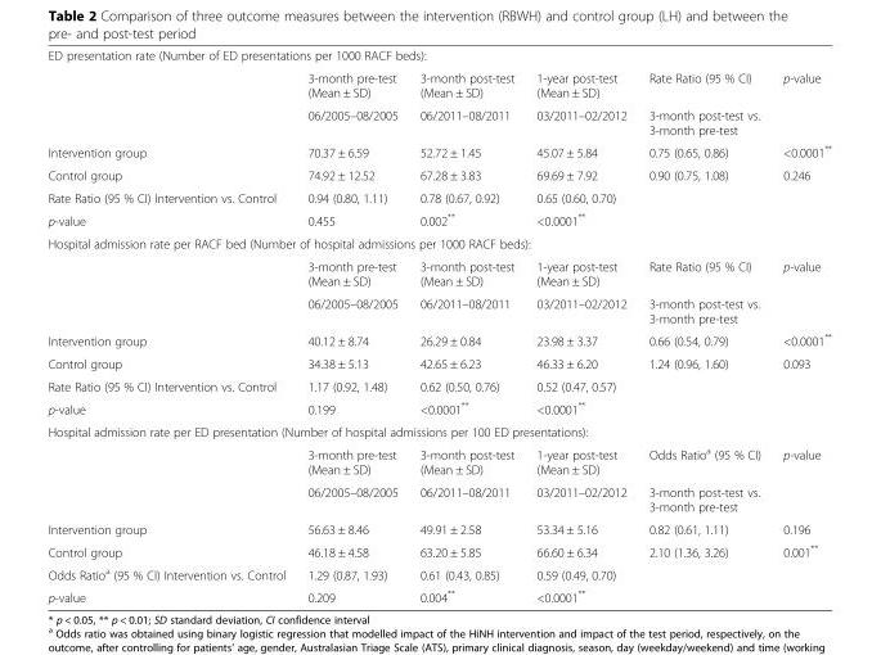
<table><tbody><tr><td colspan="6">ED presentation rate (Number of ED presentations per 1000 RACF beds):</td></tr><tr><td rowspan="2"></td><td>3-month pre-test (Mean ± SD)</td><td>3-month post-test (Mean ± SD)</td><td>1-year post-test (Mean ± SD)</td><td>Rate Ratio (95 % CI)</td><td rowspan="2">p-value</td></tr><tr><td>06/2005–08/2005</td><td>06/2011–08/2011</td><td>03/2011–02/2012</td><td>3-month post-test vs. 3-month pre-test</td></tr><tr><td>Intervention group</td><td>70.37 ± 6.59</td><td>52.72 ± 1.45</td><td>45.07 ± 5.84</td><td>0.75 (0.65, 0.86)</td><td>&lt;0.0001**</td></tr><tr><td>Control group</td><td>74.92 ± 12.52</td><td>67.28 ± 3.83</td><td>69.69 ± 7.92</td><td>0.90 (0.75, 1.08)</td><td>0.246</td></tr><tr><td>Rate Ratio (95 % CI) Intervention vs. Control</td><td>0.94 (0.80, 1.11)</td><td>0.78 (0.67, 0.92)</td><td>0.65 (0.60, 0.70)</td><td></td><td></td></tr><tr><td>p-value</td><td>0.455</td><td>0.002**</td><td>&lt;0.0001**</td><td></td><td></td></tr><tr><td colspan="6">Hospital admission rate per RACF bed (Number of hospital admissions per 1000 RACF beds):</td></tr><tr><td rowspan="2"></td><td>3-month pre-test (Mean ± SD)</td><td>3-month post-test (Mean ± SD)</td><td>1-year post-test (Mean ± SD)</td><td>Rate Ratio (95 % CI)</td><td rowspan="2">p-value</td></tr><tr><td>06/2005–08/2005</td><td>06/2011–08/2011</td><td>03/2011–02/2012</td><td>3-month post-test vs. 3-month pre-test</td></tr><tr><td>Intervention group</td><td>40.12 ± 8.74</td><td>26.29 ± 0.84</td><td>23.98 ± 3.37</td><td>0.66 (0.54, 0.79)</td><td>&lt;0.0001**</td></tr><tr><td>Control group</td><td>34.38 ± 5.13</td><td>42.65 ± 6.23</td><td>46.33 ± 6.20</td><td>1.24 (0.96, 1.60)</td><td>0.093</td></tr><tr><td>Rate Ratio (95 % CI) Intervention vs. Control</td><td>1.17 (0.92, 1.48)</td><td>0.62 (0.50, 0.76)</td><td>0.52 (0.47, 0.57)</td><td></td><td></td></tr><tr><td>p-value</td><td>0.199</td><td>&lt;0.0001**</td><td>&lt;0.0001**</td><td></td><td></td></tr><tr><td colspan="6">Hospital admission rate per ED presentation (Number of hospital admissions per 100 ED presentations):</td></tr><tr><td rowspan="2"></td><td>3-month pre-test (Mean ± SD)</td><td>3-month post-test (Mean ± SD)</td><td>1-year post-test (Mean ± SD)</td><td>Odds Ratio<sup>a</sup> (95 % CI)</td><td rowspan="2">p-value</td></tr><tr><td>06/2005–08/2005</td><td>06/2011–08/2011</td><td>03/2011–02/2012</td><td>3-month post-test vs. 3-month pre-test</td></tr><tr><td>Intervention group</td><td>56.63 ± 8.46</td><td>49.91 ± 2.58</td><td>53.34 ± 5.16</td><td>0.82 (0.61, 1.11)</td><td>0.196</td></tr><tr><td>Control group</td><td>46.18 ± 4.58</td><td>63.20 ± 5.85</td><td>66.60 ± 6.34</td><td>2.10 (1.36, 3.26)</td><td>0.001**</td></tr><tr><td>Odds Ratio<sup>a</sup> (95 % CI) Intervention vs. Control</td><td>1.29 (0.87, 1.93)</td><td>0.61 (0.43, 0.85)</td><td>0.59 (0.49, 0.70)</td><td></td><td></td></tr><tr><td>p-value</td><td>0.209</td><td>0.004**</td><td>&lt;0.0001**</td><td></td><td></td></tr></tbody></table>